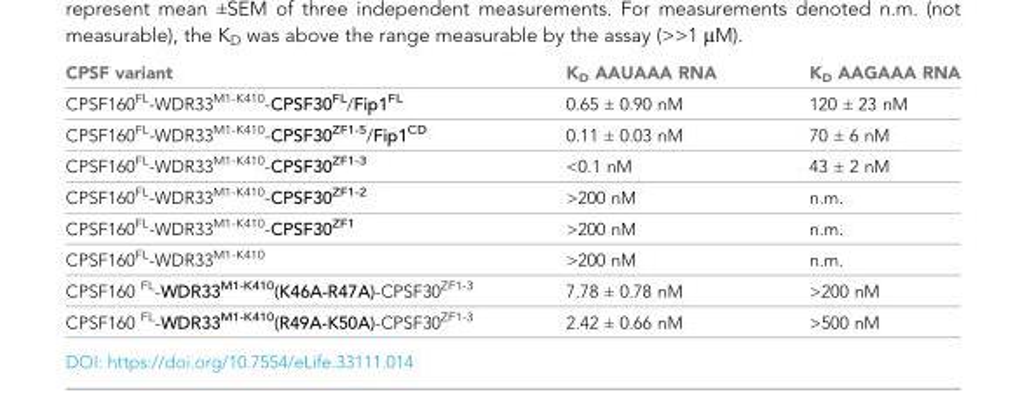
<table><thead><tr><td>CPSF variant</td><td>K<sub>D</sub> AAUAAA RNA</td><td>K<sub>D</sub> AAGAAA RNA</td></tr></thead><tbody><tr><td>CPSF160<sup>FL</sup>-WDR33<sup>M1-K410</sup>-CPSF30<sup>FL</sup>/Fip1<sup>FL</sup></td><td>0.65 ± 0.90 nM</td><td>120 ± 23 nM</td></tr><tr><td>CPSF160<sup>FL</sup>-WDR33<sup>M1-K410</sup>-CPSF30<sup>ZF1-5</sup>/Fip1<sup>CD</sup></td><td>0.11 ± 0.03 nM</td><td>70 ± 6 nM</td></tr><tr><td>CPSF160<sup>FL</sup>-WDR33<sup>M1-K410</sup>-CPSF30<sup>ZF1-3</sup></td><td>&lt;0.1 nM</td><td>43 ± 2 nM</td></tr><tr><td>CPSF160<sup>FL</sup>-WDR33<sup>M1-K410</sup>-CPSF30<sup>ZF1-2</sup></td><td>&gt;200 nM</td><td>n.m.</td></tr><tr><td>CPSF160<sup>FL</sup>-WDR33<sup>M1-K410</sup>-CPSF30<sup>ZF1</sup></td><td>&gt;200 nM</td><td>n.m.</td></tr><tr><td>CPSF160<sup>FL</sup>-WDR33<sup>M1-K410</sup></td><td>&gt;200 nM</td><td>n.m.</td></tr><tr><td>CPSF160 <sup>FL</sup>-WDR33<sup>M1-K410</sup>(K46A-R47A)-CPSF30<sup>ZF1-3</sup></td><td>7.78 ± 0.78 nM</td><td>&gt;200 nM</td></tr><tr><td>CPSF160 <sup>FL</sup>-WDR33<sup>M1-K410</sup>(R49A-K50A)-CPSF30<sup>ZF1-3</sup></td><td>2.42 ± 0.66 nM</td><td>&gt;500 nM</td></tr></tbody></table>